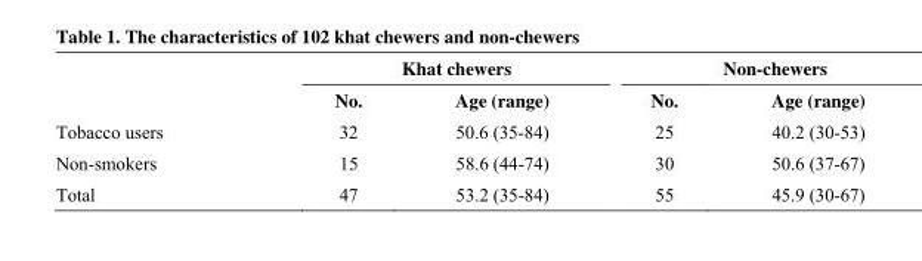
<table><thead><tr><td rowspan="2"></td><td colspan="2">Khat chewers</td><td colspan="2">Non-chewers</td></tr><tr><td>No.</td><td>Age (range)</td><td>No.</td><td>Age (range)</td></tr></thead><tbody><tr><td>Tobacco users</td><td>32</td><td>50.6 (35-84)</td><td>25</td><td>40.2 (30-53)</td></tr><tr><td>Non-smokers</td><td>15</td><td>58.6 (44-74)</td><td>30</td><td>50.6 (37-67)</td></tr><tr><td>Total</td><td>47</td><td>53.2 (35-84)</td><td>55</td><td>45.9 (30-67)</td></tr></tbody></table>